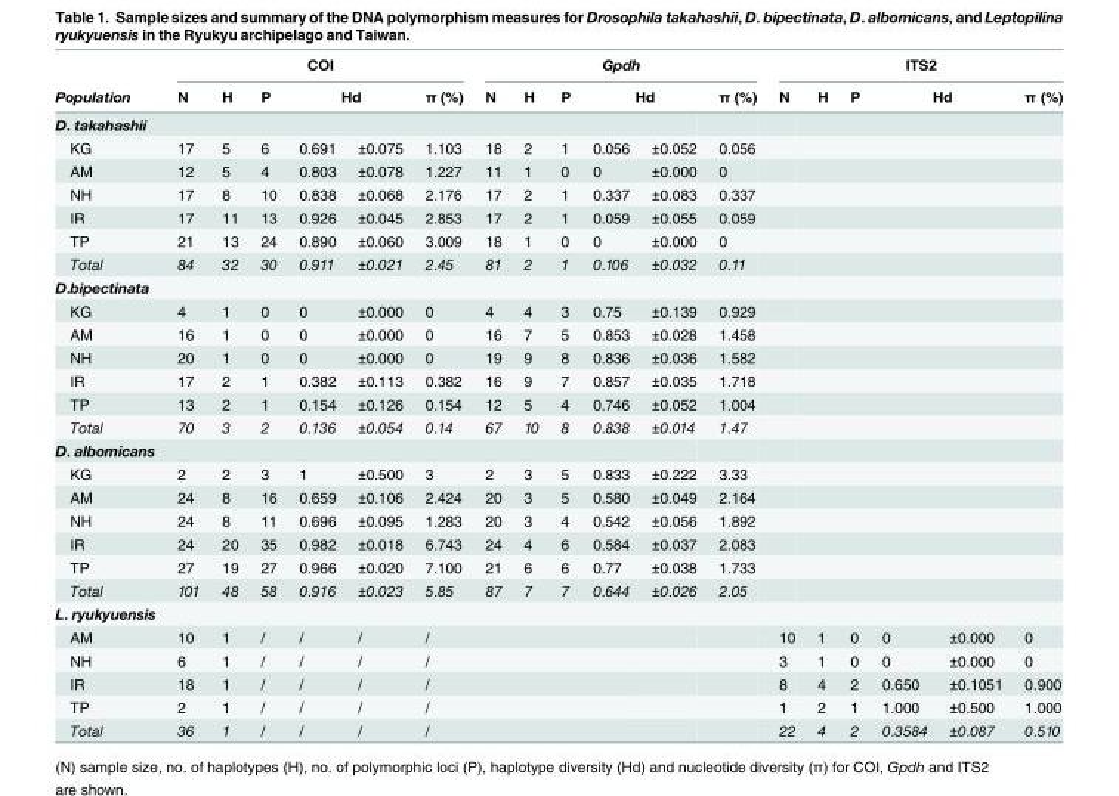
<table><thead><tr><td rowspan="3">Population D. takahashii</td><td colspan="6">COI</td><td colspan="6">Gpdh</td><td colspan="6">ITS2</td></tr><tr><td rowspan="2">N</td><td rowspan="2">H</td><td rowspan="2">P</td><td colspan="2">Hd</td><td rowspan="2">π (%)</td><td rowspan="2">N</td><td rowspan="2">H</td><td rowspan="2">P</td><td colspan="2">Hd</td><td rowspan="2">π (%)</td><td rowspan="2">N</td><td rowspan="2">H</td><td rowspan="2">P</td><td colspan="2">Hd</td><td rowspan="2">π (%)</td></tr><tr><td></td><td></td><td></td><td></td><td></td><td></td></tr></thead><tbody><tr><td>KG</td><td>17</td><td>5</td><td>6</td><td>0.691</td><td>±0.075</td><td>1.103</td><td>18</td><td>2</td><td>1</td><td>0.056</td><td>±0.052</td><td>0.056</td><td></td><td></td><td></td><td></td><td></td><td></td></tr><tr><td>AM</td><td>12</td><td>5</td><td>4</td><td>0.803</td><td>±0.078</td><td>1.227</td><td>11</td><td>1</td><td>0</td><td>0</td><td>±0.000</td><td>0</td><td></td><td></td><td></td><td></td><td></td><td></td></tr><tr><td>NH</td><td>17</td><td>8</td><td>10</td><td>0.838</td><td>±0.068</td><td>2.176</td><td>17</td><td>2</td><td>1</td><td>0.337</td><td>±0.083</td><td>0.337</td><td></td><td></td><td></td><td></td><td></td><td></td></tr><tr><td>IR</td><td>17</td><td>11</td><td>13</td><td>0.926</td><td>±0.045</td><td>2.853</td><td>17</td><td>2</td><td>1</td><td>0.059</td><td>±0.055</td><td>0.059</td><td></td><td></td><td></td><td></td><td></td><td></td></tr><tr><td>TP</td><td>21</td><td>13</td><td>24</td><td>0.890</td><td>±0.060</td><td>3.009</td><td>18</td><td>1</td><td>0</td><td>0</td><td>±0.000</td><td>0</td><td></td><td></td><td></td><td></td><td></td><td></td></tr><tr><td>Total</td><td>84</td><td>32</td><td>30</td><td>0.911</td><td>±0.021</td><td>2.45</td><td>81</td><td>2</td><td>1</td><td>0.106</td><td>±0.032</td><td>0.11</td><td></td><td></td><td></td><td></td><td></td><td></td></tr><tr><td colspan="19">D.bipectinata</td></tr><tr><td>KG</td><td>4</td><td>1</td><td>0</td><td>0</td><td>±0.000</td><td>0</td><td>4</td><td>4</td><td>3</td><td>0.75</td><td>±0.139</td><td>0.929</td><td></td><td></td><td></td><td></td><td></td><td></td></tr><tr><td>AM</td><td>16</td><td>1</td><td>0</td><td>0</td><td>±0.000</td><td>0</td><td>16</td><td>7</td><td>5</td><td>0.853</td><td>±0.028</td><td>1.458</td><td></td><td></td><td></td><td></td><td></td><td></td></tr><tr><td>NH</td><td>20</td><td>1</td><td>0</td><td>0</td><td>±0.000</td><td>0</td><td>19</td><td>9</td><td>8</td><td>0.836</td><td>±0.036</td><td>1.582</td><td></td><td></td><td></td><td></td><td></td><td></td></tr><tr><td>IR</td><td>17</td><td>2</td><td>1</td><td>0.382</td><td>±0.113</td><td>0.382</td><td>16</td><td>9</td><td>7</td><td>0.857</td><td>±0.035</td><td>1.718</td><td></td><td></td><td></td><td></td><td></td><td></td></tr><tr><td>TP</td><td>13</td><td>2</td><td>1</td><td>0.154</td><td>±0.126</td><td>0.154</td><td>12</td><td>5</td><td>4</td><td>0.746</td><td>±0.052</td><td>1.004</td><td></td><td></td><td></td><td></td><td></td><td></td></tr><tr><td>Total</td><td>70</td><td>3</td><td>2</td><td>0.136</td><td>±0.054</td><td>0.14</td><td>67</td><td>10</td><td>8</td><td>0.838</td><td>±0.014</td><td>1.47</td><td></td><td></td><td></td><td></td><td></td><td></td></tr><tr><td colspan="19">D. albomicans</td></tr><tr><td>KG</td><td>2</td><td>2</td><td>3</td><td>1</td><td>±0.500</td><td>3</td><td>2</td><td>3</td><td>5</td><td>0.833</td><td>±0.222</td><td>3.33</td><td></td><td></td><td></td><td></td><td></td><td></td></tr><tr><td>AM</td><td>24</td><td>8</td><td>16</td><td>0.659</td><td>±0.106</td><td>2.424</td><td>20</td><td>3</td><td>5</td><td>0.580</td><td>±0.049</td><td>2.164</td><td></td><td></td><td></td><td></td><td></td><td></td></tr><tr><td>NH</td><td>24</td><td>8</td><td>11</td><td>0.696</td><td>±0.095</td><td>1.283</td><td>20</td><td>3</td><td>4</td><td>0.542</td><td>±0.056</td><td>1.892</td><td></td><td></td><td></td><td></td><td></td><td></td></tr><tr><td>IR</td><td>24</td><td>20</td><td>35</td><td>0.982</td><td>±0.018</td><td>6.743</td><td>24</td><td>4</td><td>6</td><td>0.584</td><td>±0.037</td><td>2.083</td><td></td><td></td><td></td><td></td><td></td><td></td></tr><tr><td>TP</td><td>27</td><td>19</td><td>27</td><td>0.966</td><td>±0.020</td><td>7.100</td><td>21</td><td>6</td><td>6</td><td>0.77</td><td>±0.038</td><td>1.733</td><td></td><td></td><td></td><td></td><td></td><td></td></tr><tr><td>Total</td><td>101</td><td>48</td><td>58</td><td>0.916</td><td>±0.023</td><td>5.85</td><td>87</td><td>7</td><td>7</td><td>0.644</td><td>±0.026</td><td>2.05</td><td></td><td></td><td></td><td></td><td></td><td></td></tr><tr><td colspan="19">L. ryukyuensis</td></tr><tr><td>AM</td><td>10</td><td>1</td><td>/</td><td>/</td><td>/</td><td>/</td><td></td><td></td><td></td><td></td><td></td><td></td><td>10</td><td>1</td><td>0</td><td>0</td><td>±0.000</td><td>0</td></tr><tr><td>NH</td><td>6</td><td>1</td><td>/</td><td>/</td><td>/</td><td>/</td><td></td><td></td><td></td><td></td><td></td><td></td><td>3</td><td>1</td><td>0</td><td>0</td><td>±0.000</td><td>0</td></tr><tr><td>IR</td><td>18</td><td>1</td><td>/</td><td>/</td><td>/</td><td>/</td><td></td><td></td><td></td><td></td><td></td><td></td><td>8</td><td>4</td><td>2</td><td>0.650</td><td>±0.1051</td><td>0.900</td></tr><tr><td>TP</td><td>2</td><td>1</td><td>/</td><td>/</td><td>/</td><td>/</td><td></td><td></td><td></td><td></td><td></td><td></td><td>1</td><td>2</td><td>1</td><td>1.000</td><td>±0.500</td><td>1.000</td></tr><tr><td>Total</td><td>36</td><td>1</td><td>/</td><td>/</td><td>/</td><td>/</td><td></td><td></td><td></td><td></td><td></td><td></td><td>22</td><td>4</td><td>2</td><td>0.3584</td><td>±0.087</td><td>0.510</td></tr></tbody></table>